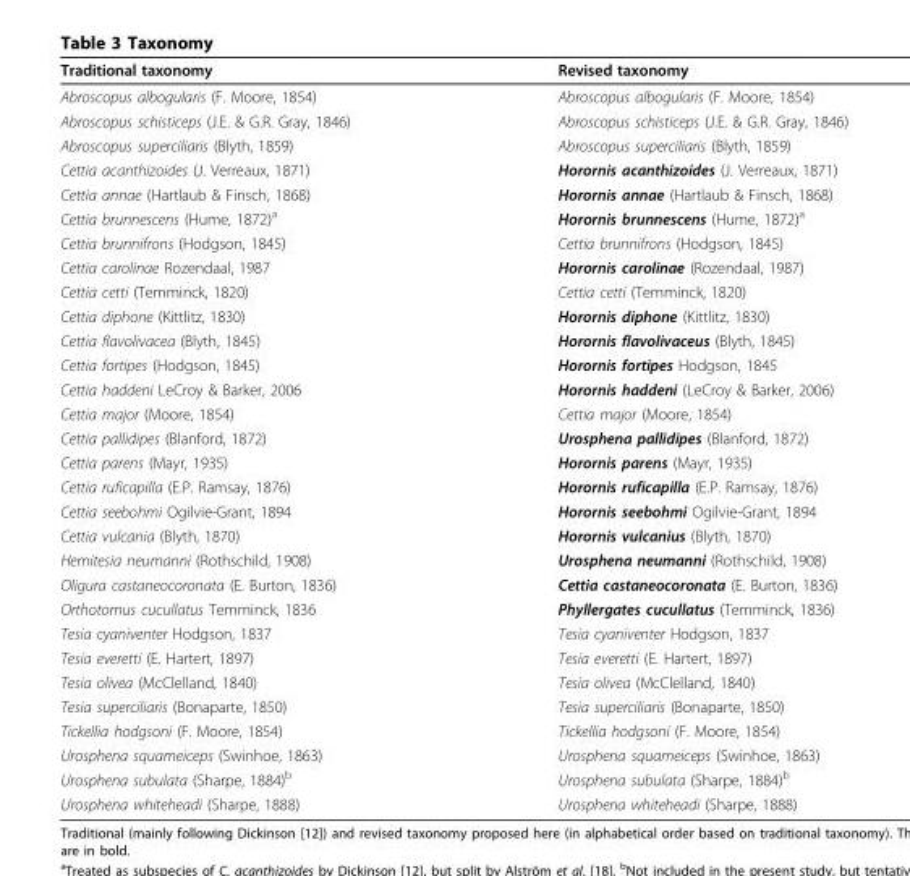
<table><thead><tr><td>Traditional taxonomy</td><td>Revised taxonomy</td></tr></thead><tbody><tr><td>Abroscopus albogularis (F. Moore, 1854)</td><td>Abroscopus albogularis (F. Moore, 1854)</td></tr><tr><td>Abroscopus schisticeps (J.E. &amp; G.R. Gray, 1846)</td><td>Abroscopus schisticeps (J.E. &amp; G.R. Gray, 1846)</td></tr><tr><td>Abroscopus superciliaris (Blyth, 1859)</td><td>Abroscopus superciliaris (Blyth, 1859)</td></tr><tr><td>Cettia acanthizoides (J. Verreaux, 1871)</td><td>Horornis acanthizoides (J. Verreaux, 1871)</td></tr><tr><td>Cettia annae (Hartlaub &amp; Finsch, 1868)</td><td>Horornis annae (Hartlaub &amp; Finsch, 1868)</td></tr><tr><td>Cettia brunnescens (Hume, 1872)<sup>a</sup></td><td>Horornis brunnescens (Hume, 1872)<sup>a</sup></td></tr><tr><td>Cettia brunnifrons (Hodgson, 1845)</td><td>Cettia brunnifrons (Hodgson, 1845)</td></tr><tr><td>Cettia carolinae Rozendaal, 1987</td><td>Horornis carolinae (Rozendaal, 1987)</td></tr><tr><td>Cettia cetti (Temminck, 1820)</td><td>Cettia cetti (Temminck, 1820)</td></tr><tr><td>Cettia diphone (Kittlitz, 1830)</td><td>Horornis diphone (Kittlitz, 1830)</td></tr><tr><td>Cettia flavolivacea (Blyth, 1845)</td><td>Horornis flavolivaceus (Blyth, 1845)</td></tr><tr><td>Cettia fortipes (Hodgson, 1845)</td><td>Horornis fortipes Hodgson, 1845</td></tr><tr><td>Cettia haddeni LeCroy &amp; Barker, 2006</td><td>Horornis haddeni (LeCroy &amp; Barker, 2006)</td></tr><tr><td>Cettia major (Moore, 1854)</td><td>Cettia major (Moore, 1854)</td></tr><tr><td>Cettia pallidipes (Blanford, 1872)</td><td>Urosphena pallidipes (Blanford, 1872)</td></tr><tr><td>Cettia parens (Mayr, 1935)</td><td>Horornis parens (Mayr, 1935)</td></tr><tr><td>Cettia ruficapilla (E.P. Ramsay, 1876)</td><td>Horornis ruficapilla (E.P. Ramsay, 1876)</td></tr><tr><td>Cettia seebohmi Ogilvie-Grant, 1894</td><td>Horornis seebohmi Ogilvie-Grant, 1894</td></tr><tr><td>Cettia vulcania (Blyth, 1870)</td><td>Horornis vulcanius (Blyth, 1870)</td></tr><tr><td>Hemitesia neumanni (Rothschild, 1908)</td><td>Urosphena neumanni (Rothschild, 1908)</td></tr><tr><td>Oligura castaneocoronata (E. Burton, 1836)</td><td>Cettia castaneocoronata (E. Burton, 1836)</td></tr><tr><td>Orthotomus cucullatus Temminck, 1836</td><td>Phyllergates cucullatus (Temminck, 1836)</td></tr><tr><td>Tesia cyaniventer Hodgson, 1837</td><td>Tesia cyaniventer Hodgson, 1837</td></tr><tr><td>Tesia everetti (E. Hartert, 1897)</td><td>Tesia everetti (E. Hartert, 1897)</td></tr><tr><td>Tesia olivea (McClelland, 1840)</td><td>Tesia olivea (McClelland, 1840)</td></tr><tr><td>Tesia superciliaris (Bonaparte, 1850)</td><td>Tesia superciliaris (Bonaparte, 1850)</td></tr><tr><td>Tickellia hodgsoni (F. Moore, 1854)</td><td>Tickellia hodgsoni (F. Moore, 1854)</td></tr><tr><td>Urosphena squameiceps (Swinhoe, 1863)</td><td>Urosphena squameiceps (Swinhoe, 1863)</td></tr><tr><td>Urosphena subulata (Sharpe, 1884)<sup>b</sup></td><td>Urosphena subulata (Sharpe, 1884)<sup>b</sup></td></tr><tr><td>Urosphena whiteheadi (Sharpe, 1888)</td><td>Urosphena whiteheadi (Sharpe, 1888)</td></tr></tbody></table>